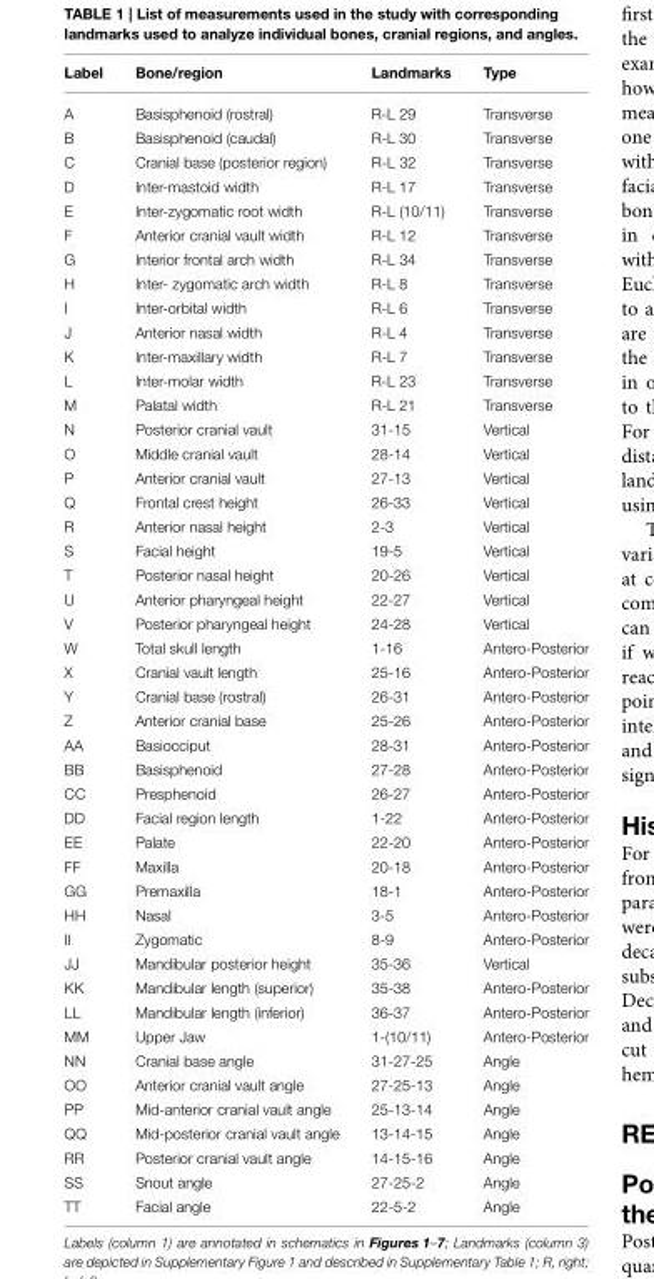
<table><thead><tr><td>Label</td><td>Bone/region</td><td>Landmarks</td><td>Type</td></tr></thead><tbody><tr><td>A</td><td>Basisphenoid (rostral)</td><td>R-L 29</td><td>Transverse</td></tr><tr><td>B</td><td>Basisphenoid (caudal)</td><td>R-L 30</td><td>Transverse</td></tr><tr><td>C</td><td>Cranial base (posterior region)</td><td>R-L 32</td><td>Transverse</td></tr><tr><td>D</td><td>Inter-mastoid width</td><td>R-L 17</td><td>Transverse</td></tr><tr><td>E</td><td>Inter-zygomatic root width</td><td>R-L (10/11)</td><td>Transverse</td></tr><tr><td>F</td><td>Anterior cranial vault width</td><td>R-L 12</td><td>Transverse</td></tr><tr><td>G</td><td>Interior frontal arch width</td><td>R-L 34</td><td>Transverse</td></tr><tr><td>H</td><td>Inter- zygomatic arch width</td><td>R-L 8</td><td>Transverse</td></tr><tr><td>I</td><td>Inter-orbital width</td><td>R-L 6</td><td>Transverse</td></tr><tr><td>J</td><td>Anterior nasal width</td><td>R-L 4</td><td>Transverse</td></tr><tr><td>K</td><td>Inter-maxillary width</td><td>R-L 7</td><td>Transverse</td></tr><tr><td>L</td><td>Inter-molar width</td><td>R-L 23</td><td>Transverse</td></tr><tr><td>M</td><td>Palatal width</td><td>R-L 21</td><td>Transverse</td></tr><tr><td>N</td><td>Posterior cranial vault</td><td>31-15</td><td>Vertical</td></tr><tr><td>O</td><td>Middle cranial vault</td><td>28-14</td><td>Vertical</td></tr><tr><td>P</td><td>Anterior cranial vault</td><td>27-13</td><td>Vertical</td></tr><tr><td>Q</td><td>Frontal crest height</td><td>26-33</td><td>Vertical</td></tr><tr><td>R</td><td>Anterior nasal height</td><td>2-3</td><td>Vertical</td></tr><tr><td>S</td><td>Facial height</td><td>19-5</td><td>Vertical</td></tr><tr><td>T</td><td>Posterior nasal height</td><td>20-26</td><td>Vertical</td></tr><tr><td>U</td><td>Anterior pharyngeal height</td><td>22-27</td><td>Vertical</td></tr><tr><td>V</td><td>Posterior pharyngeal height</td><td>24-28</td><td>Vertical</td></tr><tr><td>W</td><td>Total skull length</td><td>1-16</td><td>Antero-Posterior</td></tr><tr><td>X</td><td>Cranial vault length</td><td>25-16</td><td>Antero-Posterior</td></tr><tr><td>Y</td><td>Cranial base (rostral)</td><td>26-31</td><td>Antero-Posterior</td></tr><tr><td>Z</td><td>Anterior cranial base</td><td>25-26</td><td>Antero-Posterior</td></tr><tr><td>AA</td><td>Basiocciput</td><td>28-31</td><td>Antero-Posterior</td></tr><tr><td>BB</td><td>Basisphenoid</td><td>27-28</td><td>Antero-Posterior</td></tr><tr><td>CC</td><td>Presphenoid</td><td>26-27</td><td>Antero-Posterior</td></tr><tr><td>DD</td><td>Facial region length</td><td>1-22</td><td>Antero-Posterior</td></tr><tr><td>EE</td><td>Palate</td><td>22-20</td><td>Antero-Posterior</td></tr><tr><td>FF</td><td>Maxilla</td><td>20-18</td><td>Antero-Posterior</td></tr><tr><td>GG</td><td>Premaxilla</td><td>18-1</td><td>Antero-Posterior</td></tr><tr><td>HH</td><td>Nasal</td><td>3-5</td><td>Antero-Posterior</td></tr><tr><td>II</td><td>Zygomatic</td><td>8-9</td><td>Antero-Posterior</td></tr><tr><td>JJ</td><td>Mandibular posterior height</td><td>35-36</td><td>Vertical</td></tr><tr><td>KK</td><td>Mandibular length (superior)</td><td>35-38</td><td>Antero-Posterior</td></tr><tr><td>LL</td><td>Mandibular length (inferior)</td><td>36-37</td><td>Antero-Posterior</td></tr><tr><td>MM</td><td>Upper Jaw</td><td>1-(10/11)</td><td>Antero-Posterior</td></tr><tr><td>NN</td><td>Cranial base angle</td><td>31-27-25</td><td>Angle</td></tr><tr><td>OO</td><td>Anterior cranial vault angle</td><td>27-25-13</td><td>Angle</td></tr><tr><td>PP</td><td>Mid-anterior cranial vault angle</td><td>25-13-14</td><td>Angle</td></tr><tr><td>QQ</td><td>Mid-posterior cranial vault angle</td><td>13-14-15</td><td>Angle</td></tr><tr><td>RR</td><td>Posterior cranial vault angle</td><td>14-15-16</td><td>Angle</td></tr><tr><td>SS</td><td>Snout angle</td><td>27-25-2</td><td>Angle</td></tr><tr><td>TT</td><td>Facial angle</td><td>22-5-2</td><td>Angle</td></tr></tbody></table>